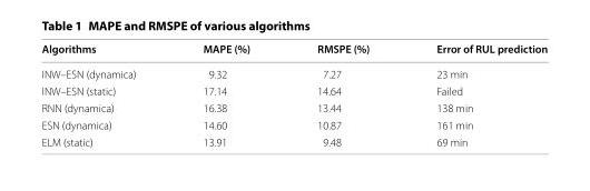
<table><thead><tr><td>Algorithms</td><td>MAPE (%)</td><td>RMSPE (%)</td><td>Error of RUL prediction</td></tr></thead><tbody><tr><td>INW–ESN (dynamica)</td><td>9.32</td><td>7.27</td><td>23 min</td></tr><tr><td>INW–ESN (static)</td><td>17.14</td><td>14.64</td><td>Failed</td></tr><tr><td>RNN (dynamica)</td><td>16.38</td><td>13.44</td><td>138 min</td></tr><tr><td>ESN (dynamica)</td><td>14.60</td><td>10.87</td><td>161 min</td></tr><tr><td>ELM (static)</td><td>13.91</td><td>9.48</td><td>69 min</td></tr></tbody></table>